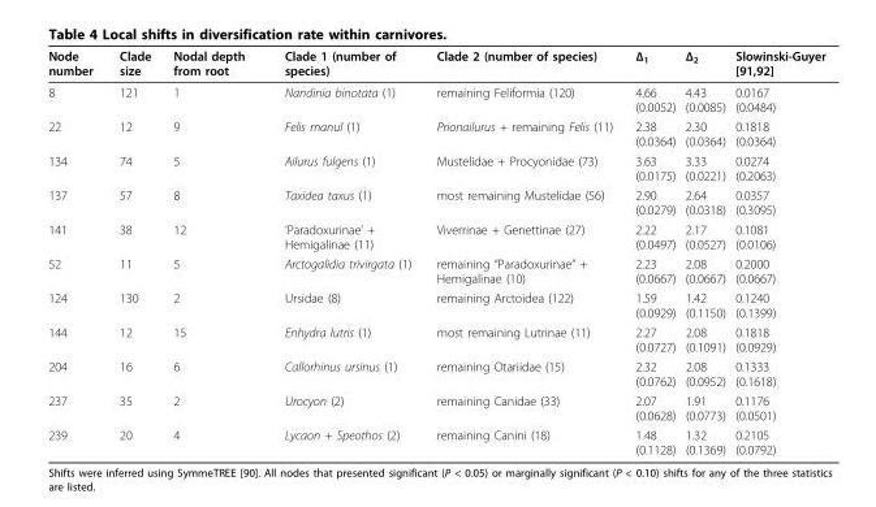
<table><thead><tr><td>Node number</td><td>Clade size</td><td>Nodal depth from root</td><td>Clade 1 (number of species)</td><td>Clade 2 (number of species)</td><td>Δ<sub>1</sub></td><td>Δ<sub>2</sub></td><td>Slowinski-Guyer [91,92]</td></tr></thead><tbody><tr><td>8</td><td>121</td><td>1</td><td>Nandinia binotata (1)</td><td>remaining Feliformia (120)</td><td>4.66 (0.0052)</td><td>4.43 (0.0085)</td><td>0.0167 (0.0484)</td></tr><tr><td>22</td><td>12</td><td>9</td><td>Felis manul (1)</td><td>Prionailurus + remaining Felis (11)</td><td>2.38 (0.0364)</td><td>2.30 (0.0364)</td><td>0.1818 (0.0364)</td></tr><tr><td>134</td><td>74</td><td>5</td><td>Ailurus fulgens (1)</td><td>Mustelidae + Procyonidae (73)</td><td>3.63 (0.0175)</td><td>3.33 (0.0221)</td><td>0.0274 (0.2063)</td></tr><tr><td>137</td><td>57</td><td>8</td><td>Taxidea taxus (1)</td><td>most remaining Mustelidae (56)</td><td>2.90 (0.0279)</td><td>2.64 (0.0318)</td><td>0.0357 (0.3095)</td></tr><tr><td>141</td><td>38</td><td>12</td><td>’Paradoxurinae’ + Hemigalinae (11)</td><td>Viverrinae + Genettinae (27)</td><td>2.22 (0.0497)</td><td>2.17 (0.0527)</td><td>0.1081 (0.0106)</td></tr><tr><td>52</td><td>11</td><td>5</td><td>Arctogalidia trivirgata (1)</td><td>remaining “Paradoxurinae” + Hemigalinae (10)</td><td>2.23 (0.0667)</td><td>2.08 (0.0667)</td><td>0.2000 (0.0667)</td></tr><tr><td>124</td><td>130</td><td>2</td><td>Ursidae (8)</td><td>remaining Arctoidea (122)</td><td>1.59 (0.0929)</td><td>1.42 (0.1150)</td><td>0.1240 (0.1399)</td></tr><tr><td>144</td><td>12</td><td>15</td><td>Enhydra lutris (1)</td><td>most remaining Lutrinae (11)</td><td>2.27 (0.0727)</td><td>2.08 (0.1091)</td><td>0.1818 (0.0929)</td></tr><tr><td>204</td><td>16</td><td>6</td><td>Callorhinus ursinus (1)</td><td>remaining Otariidae (15)</td><td>2.32 (0.0762)</td><td>2.08 (0.0952)</td><td>0.1333 (0.1618)</td></tr><tr><td>237</td><td>35</td><td>2</td><td>Urocyon (2)</td><td>remaining Canidae (33)</td><td>2.07 (0.0628)</td><td>1.91 (0.0773)</td><td>0.1176 (0.0501)</td></tr><tr><td>239</td><td>20</td><td>4</td><td>Lycaon + Speothos (2)</td><td>remaining Canini (18)</td><td>1.48 (0.1128)</td><td>1.32 (0.1369)</td><td>0.2105 (0.0792)</td></tr></tbody></table>